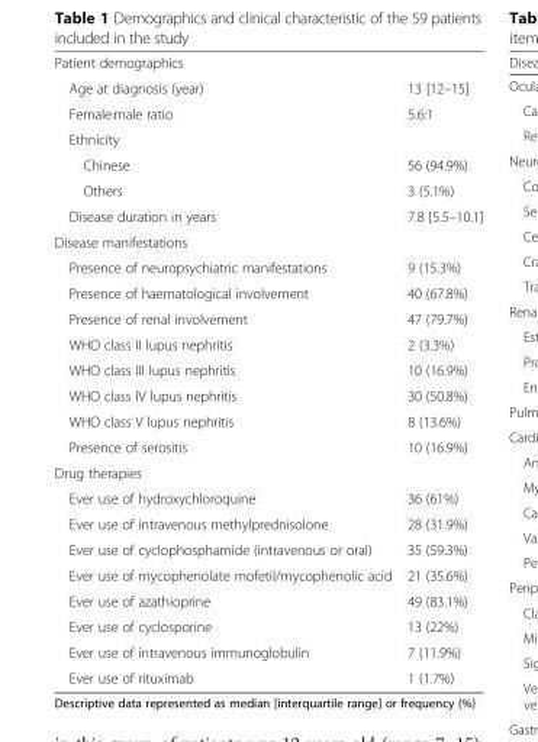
<table><tbody><tr><td colspan="2">Patient demographics</td></tr><tr><td>Age at diagnosis (year)</td><td>13 [12–15]</td></tr><tr><td>Female:male ratio</td><td>5.6:1</td></tr><tr><td colspan="2">Ethnicity</td></tr><tr><td>Chinese</td><td>56 (94.9%)</td></tr><tr><td>Others</td><td>3 (5.1%)</td></tr><tr><td>Disease duration in years</td><td>7.8 [5.5–10.1]</td></tr><tr><td colspan="2">Disease manifestations</td></tr><tr><td>Presence of neuropsychiatric manifestations</td><td>9 (15.3%)</td></tr><tr><td>Presence of haematological involvement</td><td>40 (67.8%)</td></tr><tr><td>Presence of renal involvement</td><td>47 (79.7%)</td></tr><tr><td>WHO class II lupus nephritis</td><td>2 (3.3%)</td></tr><tr><td>WHO class III lupus nephritis</td><td>10 (16.9%)</td></tr><tr><td>WHO class IV lupus nephritis</td><td>30 (50.8%)</td></tr><tr><td>WHO class V lupus nephritis</td><td>8 (13.6%)</td></tr><tr><td>Presence of serositis</td><td>10 (16.9%)</td></tr><tr><td colspan="2">Drug therapies</td></tr><tr><td>Ever use of hydroxychloroquine</td><td>36 (61%)</td></tr><tr><td>Ever use of intravenous methylprednisolone</td><td>28 (31.9%)</td></tr><tr><td>Ever use of cyclophosphamide (intravenous or oral)</td><td>35 (59.3%)</td></tr><tr><td>Ever use of mycophenolate mofetil/mycophenolic acid</td><td>21 (35.6%)</td></tr><tr><td>Ever use of azathioprine</td><td>49 (83.1%)</td></tr><tr><td>Ever use of cyclosporine</td><td>13 (22%)</td></tr><tr><td>Ever use of intravenous immunoglobulin</td><td>7 (11.9%)</td></tr><tr><td>Ever use of rituximab</td><td>1 (1.7%)</td></tr></tbody></table>